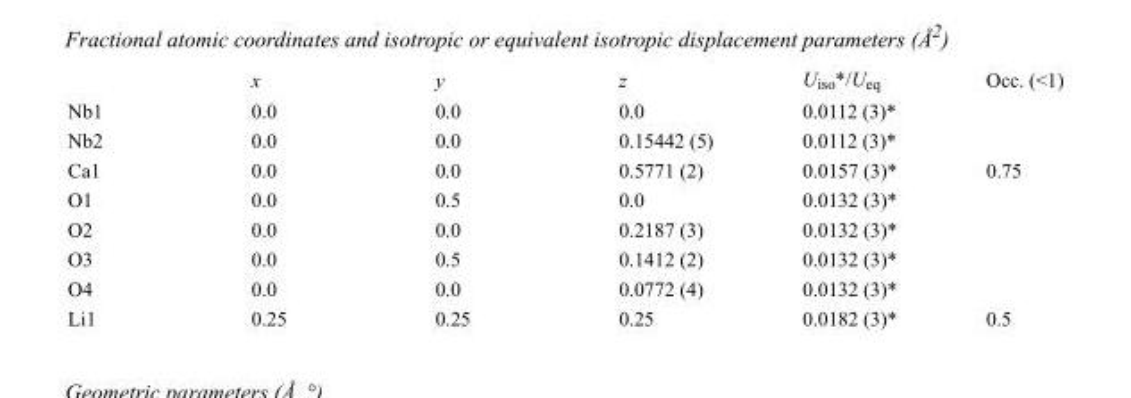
<table><thead><tr><td></td><td>x</td><td>y</td><td>z</td><td>U<sub>iso</sub>*/U<sub>eq</sub></td><td>Occ. (&lt;1)</td></tr></thead><tbody><tr><td>Nb1</td><td>0.0</td><td>0.0</td><td>0.0</td><td>0.0112 (3)*</td><td></td></tr><tr><td>Nb2</td><td>0.0</td><td>0.0</td><td>0.15442 (5)</td><td>0.0112 (3)*</td><td></td></tr><tr><td>Ca1</td><td>0.0</td><td>0.0</td><td>0.5771 (2)</td><td>0.0157 (3)*</td><td>0.75</td></tr><tr><td>O1</td><td>0.0</td><td>0.5</td><td>0.0</td><td>0.0132 (3)*</td><td></td></tr><tr><td>O2</td><td>0.0</td><td>0.0</td><td>0.2187 (3)</td><td>0.0132 (3)*</td><td></td></tr><tr><td>O3</td><td>0.0</td><td>0.5</td><td>0.1412 (2)</td><td>0.0132 (3)*</td><td></td></tr><tr><td>O4</td><td>0.0</td><td>0.0</td><td>0.0772 (4)</td><td>0.0132 (3)*</td><td></td></tr><tr><td>Li1</td><td>0.25</td><td>0.25</td><td>0.25</td><td>0.0182 (3)*</td><td>0.5</td></tr></tbody></table>